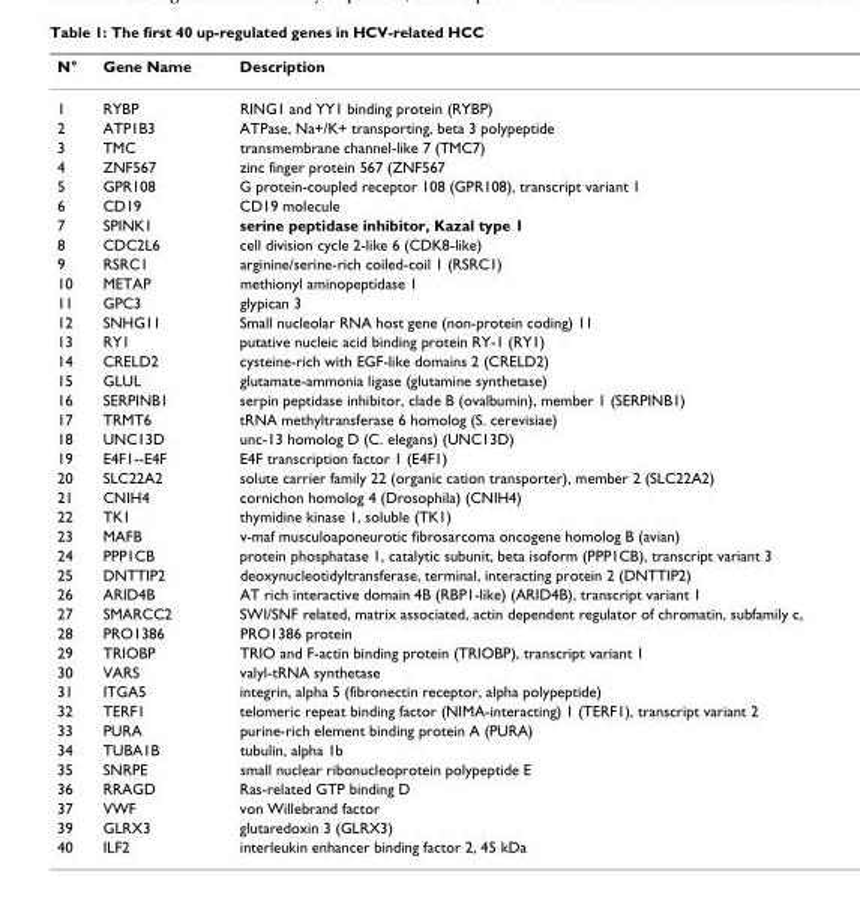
<table><thead><tr><td>N°</td><td>Gene Name</td><td>Description</td></tr></thead><tbody><tr><td>1</td><td>RYBP</td><td>RING1 and YY1 binding protein (RYBP)</td></tr><tr><td>2</td><td>ATP1B3</td><td>ATPase, Na+/K+ transporting, beta 3 polypeptide</td></tr><tr><td>3</td><td>TMC</td><td>transmembrane channel-like 7 (TMC7)</td></tr><tr><td>4</td><td>ZNF567</td><td>zinc finger protein 567 (ZNF567</td></tr><tr><td>5</td><td>GPR108</td><td>G protein-coupled receptor 108 (GPR108), transcript variant 1</td></tr><tr><td>6</td><td>CD19</td><td>CD19 molecule</td></tr><tr><td>7</td><td>SPINK1</td><td>serine peptidase inhibitor, Kazal type 1</td></tr><tr><td>8</td><td>CDC2L6</td><td>cell division cycle 2-like 6 (CDK8-like)</td></tr><tr><td>9</td><td>RSRC1</td><td>arginine/serine-rich coiled-coil 1 (RSRC1)</td></tr><tr><td>10</td><td>METAP</td><td>methionyl aminopeptidase 1</td></tr><tr><td>11</td><td>GPC3</td><td>glypican 3</td></tr><tr><td>12</td><td>SNHG11</td><td>Small nucleolar RNA host gene (non-protein coding) 11</td></tr><tr><td>13</td><td>RY1</td><td>putative nucleic acid binding protein RY-1 (RY1)</td></tr><tr><td>14</td><td>CRELD2</td><td>cysteine-rich with EGF-like domains 2 (CRELD2)</td></tr><tr><td>15</td><td>GLUL</td><td>glutamate-ammonia ligase (glutamine synthetase)</td></tr><tr><td>16</td><td>SERPINB1</td><td>serpin peptidase inhibitor, clade B (ovalbumin), member 1 (SERPINB1)</td></tr><tr><td>17</td><td>TRMT6</td><td>tRNA methyltransferase 6 homolog (S. cerevisiae)</td></tr><tr><td>18</td><td>UNC13D</td><td>unc-13 homolog D (C. elegans) (UNC13D)</td></tr><tr><td>19</td><td>E4F1--E4F</td><td>E4F transcription factor 1 (E4F1)</td></tr><tr><td>20</td><td>SLC22A2</td><td>solute carrier family 22 (organic cation transporter), member 2 (SLC22A2)</td></tr><tr><td>21</td><td>CNIH4</td><td>cornichon homolog 4 (Drosophila) (CNIH4)</td></tr><tr><td>22</td><td>TK1</td><td>thymidine kinase 1, soluble (TK1)</td></tr><tr><td>23</td><td>MAFB</td><td>v-maf musculoaponeurotic fibrosarcoma oncogene homolog B (avian)</td></tr><tr><td>24</td><td>PPP1CB</td><td>protein phosphatase 1, catalytic subunit, beta isoform (PPP1CB), transcript variant 3</td></tr><tr><td>25</td><td>DNTTIP2</td><td>deoxynucleotidyltransferase, terminal, interacting protein 2 (DNTTIP2)</td></tr><tr><td>26</td><td>ARID4B</td><td>AT rich interactive domain 4B (RBP1-like) (ARID4B), transcript variant 1</td></tr><tr><td>27</td><td>SMARCC2</td><td>SWI/SNF related, matrix associated, actin dependent regulator of chromatin, subfamily c,</td></tr><tr><td>28</td><td>PRO1386</td><td>PRO1386 protein</td></tr><tr><td>29</td><td>TRIOBP</td><td>TRIO and F-actin binding protein (TRIOBP), transcript variant 1</td></tr><tr><td>30</td><td>VARS</td><td>valyl-tRNA synthetase</td></tr><tr><td>31</td><td>ITGA5</td><td>integrin, alpha 5 (fibronectin receptor, alpha polypeptide)</td></tr><tr><td>32</td><td>TERF1</td><td>telomeric repeat binding factor (NIMA-interacting) 1 (TERF1), transcript variant 2</td></tr><tr><td>33</td><td>PURA</td><td>purine-rich element binding protein A (PURA)</td></tr><tr><td>34</td><td>TUBA1B</td><td>tubulin, alpha 1b</td></tr><tr><td>35</td><td>SNRPE</td><td>small nuclear ribonucleoprotein polypeptide E</td></tr><tr><td>36</td><td>RRAGD</td><td>Ras-related GTP binding D</td></tr><tr><td>37</td><td>VWF</td><td>von Willebrand factor</td></tr><tr><td>39</td><td>GLRX3</td><td>glutaredoxin 3 (GLRX3)</td></tr><tr><td>40</td><td>ILF2</td><td>interleukin enhancer binding factor 2, 45 kDa</td></tr></tbody></table>